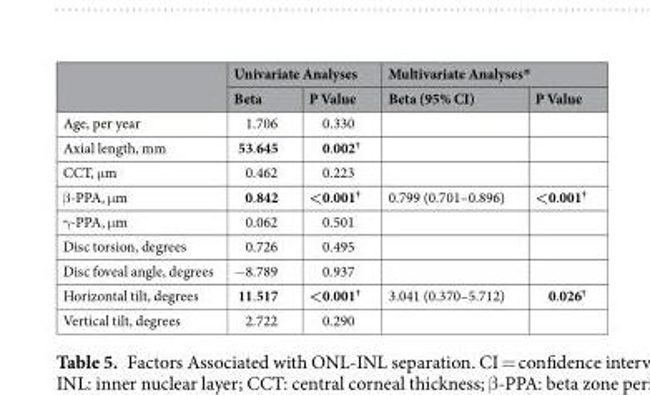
<table><thead><tr><td rowspan="2"></td><td colspan="2">Univariate Analyses</td><td colspan="2">Multivariate Analyses*</td></tr><tr><td>Beta</td><td>P Value</td><td>Beta (95% CI)</td><td>P Value</td></tr></thead><tbody><tr><td>Age, per year</td><td>1.706</td><td>0.330</td><td></td><td></td></tr><tr><td>Axial length, mm</td><td>53.645</td><td>0.002<sup>†</sup></td><td></td><td></td></tr><tr><td>CCT, μm</td><td>0.462</td><td>0.223</td><td></td><td></td></tr><tr><td>β-PPA, μm</td><td>0.842</td><td>&lt;0.001<sup>†</sup></td><td>0.799 (0.701–0.896)</td><td>&lt;0.001<sup>†</sup></td></tr><tr><td>γ-PPA, μm</td><td>0.062</td><td>0.501</td><td></td><td></td></tr><tr><td>Disc torsion, degrees</td><td>0.726</td><td>0.495</td><td></td><td></td></tr><tr><td>Disc foveal angle, degrees</td><td>−8.789</td><td>0.937</td><td></td><td></td></tr><tr><td>Horizontal tilt, degrees</td><td>11.517</td><td>&lt;0.001<sup>†</sup></td><td>3.041 (0.370–5.712)</td><td>0.026<sup>†</sup></td></tr><tr><td>Vertical tilt, degrees</td><td>2.722</td><td>0.290</td><td></td><td></td></tr></tbody></table>